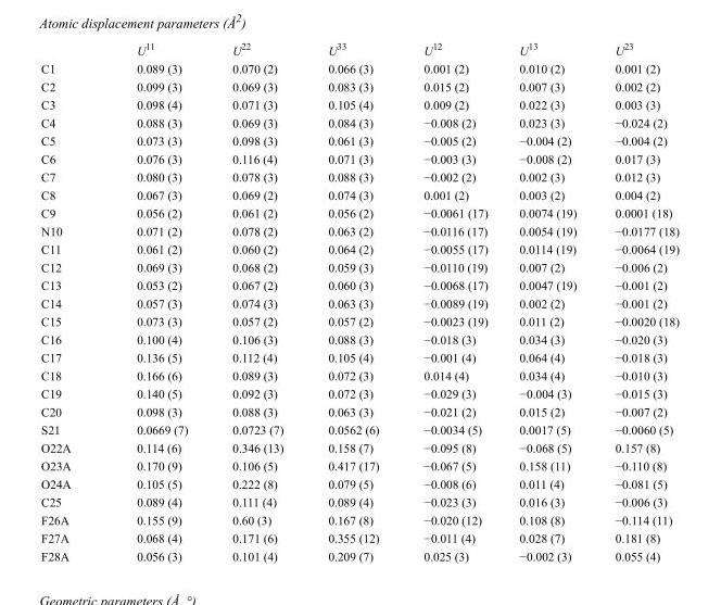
<table><thead><tr><td></td><td>U<sup>11</sup></td><td>U<sup>22</sup></td><td>U<sup>33</sup></td><td>U<sup>12</sup></td><td>U<sup>13</sup></td><td>U<sup>23</sup></td></tr></thead><tbody><tr><td>C1</td><td>0.089 (3)</td><td>0.070 (2)</td><td>0.066 (3)</td><td>0.001 (2)</td><td>0.010 (2)</td><td>0.001 (2)</td></tr><tr><td>C2</td><td>0.099 (3)</td><td>0.069 (3)</td><td>0.083 (3)</td><td>0.015 (2)</td><td>0.007 (3)</td><td>0.002 (2)</td></tr><tr><td>C3</td><td>0.098 (4)</td><td>0.071 (3)</td><td>0.105 (4)</td><td>0.009 (2)</td><td>0.022 (3)</td><td>0.003 (3)</td></tr><tr><td>C4</td><td>0.088 (3)</td><td>0.069 (3)</td><td>0.084 (3)</td><td>−0.008 (2)</td><td>0.023 (3)</td><td>−0.024 (2)</td></tr><tr><td>C5</td><td>0.073 (3)</td><td>0.098 (3)</td><td>0.061 (3)</td><td>−0.005 (2)</td><td>−0.004 (2)</td><td>−0.004 (2)</td></tr><tr><td>C6</td><td>0.076 (3)</td><td>0.116 (4)</td><td>0.071 (3)</td><td>−0.003 (3)</td><td>−0.008 (2)</td><td>0.017 (3)</td></tr><tr><td>C7</td><td>0.080 (3)</td><td>0.078 (3)</td><td>0.088 (3)</td><td>−0.002 (2)</td><td>0.002 (3)</td><td>0.012 (3)</td></tr><tr><td>C8</td><td>0.067 (3)</td><td>0.069 (2)</td><td>0.074 (3)</td><td>0.001 (2)</td><td>0.003 (2)</td><td>0.004 (2)</td></tr><tr><td>C9</td><td>0.056 (2)</td><td>0.061 (2)</td><td>0.056 (2)</td><td>−0.0061 (17)</td><td>0.0074 (19)</td><td>0.0001 (18)</td></tr><tr><td>N10</td><td>0.071 (2)</td><td>0.078 (2)</td><td>0.063 (2)</td><td>−0.0116 (17)</td><td>0.0054 (19)</td><td>−0.0177 (18)</td></tr><tr><td>C11</td><td>0.061 (2)</td><td>0.060 (2)</td><td>0.064 (2)</td><td>−0.0055 (17)</td><td>0.0114 (19)</td><td>−0.0064 (19)</td></tr><tr><td>C12</td><td>0.069 (3)</td><td>0.068 (2)</td><td>0.059 (3)</td><td>−0.0110 (19)</td><td>0.007 (2)</td><td>−0.006 (2)</td></tr><tr><td>C13</td><td>0.053 (2)</td><td>0.067 (2)</td><td>0.060 (3)</td><td>−0.0068 (17)</td><td>0.0047 (19)</td><td>−0.001 (2)</td></tr><tr><td>C14</td><td>0.057 (3)</td><td>0.074 (3)</td><td>0.063 (3)</td><td>−0.0089 (19)</td><td>0.002 (2)</td><td>−0.001 (2)</td></tr><tr><td>C15</td><td>0.073 (3)</td><td>0.057 (2)</td><td>0.057 (2)</td><td>−0.0023 (19)</td><td>0.011 (2)</td><td>−0.0020 (18)</td></tr><tr><td>C16</td><td>0.100 (4)</td><td>0.106 (3)</td><td>0.088 (3)</td><td>−0.018 (3)</td><td>0.034 (3)</td><td>−0.020 (3)</td></tr><tr><td>C17</td><td>0.136 (5)</td><td>0.112 (4)</td><td>0.105 (4)</td><td>−0.001 (4)</td><td>0.064 (4)</td><td>−0.018 (3)</td></tr><tr><td>C18</td><td>0.166 (6)</td><td>0.089 (3)</td><td>0.072 (3)</td><td>0.014 (4)</td><td>0.034 (4)</td><td>−0.010 (3)</td></tr><tr><td>C19</td><td>0.140 (5)</td><td>0.092 (3)</td><td>0.072 (3)</td><td>−0.029 (3)</td><td>−0.004 (3)</td><td>−0.015 (3)</td></tr><tr><td>C20</td><td>0.098 (3)</td><td>0.088 (3)</td><td>0.063 (3)</td><td>−0.021 (2)</td><td>0.015 (2)</td><td>−0.007 (2)</td></tr><tr><td>S21</td><td>0.0669 (7)</td><td>0.0723 (7)</td><td>0.0562 (6)</td><td>−0.0034 (5)</td><td>0.0017 (5)</td><td>−0.0060 (5)</td></tr><tr><td>O22A</td><td>0.114 (6)</td><td>0.346 (13)</td><td>0.158 (7)</td><td>−0.095 (8)</td><td>−0.068 (5)</td><td>0.157 (8)</td></tr><tr><td>O23A</td><td>0.170 (9)</td><td>0.106 (5)</td><td>0.417 (17)</td><td>−0.067 (5)</td><td>0.158 (11)</td><td>−0.110 (8)</td></tr><tr><td>O24A</td><td>0.105 (5)</td><td>0.222 (8)</td><td>0.079 (5)</td><td>−0.008 (6)</td><td>0.011 (4)</td><td>−0.081 (5)</td></tr><tr><td>C25</td><td>0.089 (4)</td><td>0.111 (4)</td><td>0.089 (4)</td><td>−0.023 (3)</td><td>0.016 (3)</td><td>−0.006 (3)</td></tr><tr><td>F26A</td><td>0.155 (9)</td><td>0.60 (3)</td><td>0.167 (8)</td><td>−0.020 (12)</td><td>0.108 (8)</td><td>−0.114 (11)</td></tr><tr><td>F27A</td><td>0.068 (4)</td><td>0.171 (6)</td><td>0.355 (12)</td><td>−0.011 (4)</td><td>0.028 (7)</td><td>0.181 (8)</td></tr><tr><td>F28A</td><td>0.056 (3)</td><td>0.101 (4)</td><td>0.209 (7)</td><td>0.025 (3)</td><td>−0.002 (3)</td><td>0.055 (4)</td></tr></tbody></table>